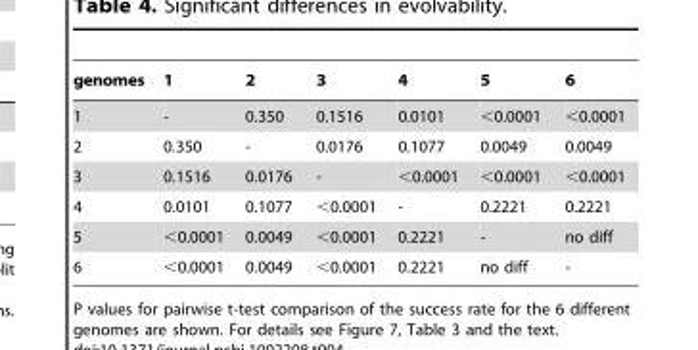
<table><thead><tr><td>genomes</td><td>1</td><td>2</td><td>3</td><td>4</td><td>5</td><td>6</td></tr></thead><tbody><tr><td>1</td><td>-</td><td>0.350</td><td>0.1516</td><td>0.0101</td><td>&lt;0.0001</td><td>&lt;0.0001</td></tr><tr><td>2</td><td>0.350</td><td>-</td><td>0.0176</td><td>0.1077</td><td>0.0049</td><td>0.0049</td></tr><tr><td>3</td><td>0.1516</td><td>0.0176</td><td>-</td><td>&lt;0.0001</td><td>&lt;0.0001</td><td>&lt;0.0001</td></tr><tr><td>4</td><td>0.0101</td><td>0.1077</td><td>&lt;0.0001</td><td>-</td><td>0.2221</td><td>0.2221</td></tr><tr><td>5</td><td>&lt;0.0001</td><td>0.0049</td><td>&lt;0.0001</td><td>0.2221</td><td>-</td><td>no diff</td></tr><tr><td>6</td><td>&lt;0.0001</td><td>0.0049</td><td>&lt;0.0001</td><td>0.2221</td><td>no diff</td><td>-</td></tr></tbody></table>